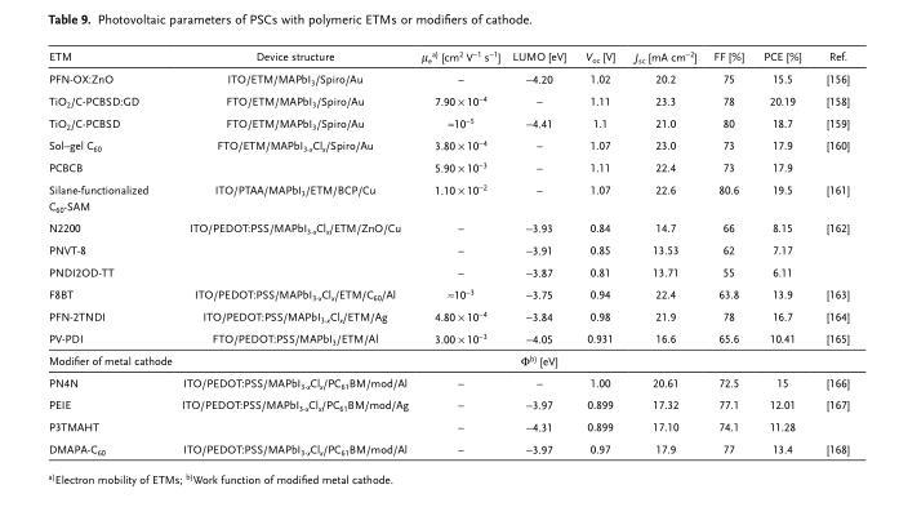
<table><thead><tr><td>ETM</td><td>Device structure</td><td>µ<sub>e</sub>a) [cm<sup>2</sup> V<sup>−1</sup> s<sup>−1</sup>]</td><td>LUMO [eV]</td><td>V<sub>oc</sub> [V]</td><td>J<sub>sc</sub> [mA cm<sup>−2</sup>]</td><td>FF [%]</td><td>PCE [%]</td><td>Ref.</td></tr></thead><tbody><tr><td>PFN-OX:ZnO</td><td>ITO/ETM/MAPbI<sub>3</sub>/Spiro/Au</td><td>–</td><td>−4.20</td><td>1.02</td><td>20.2</td><td>75</td><td>15.5</td><td>[156]</td></tr><tr><td>TiO<sub>2</sub>/C-PCBSD:GD</td><td>FTO/ETM/MAPbI<sub>3</sub>/Spiro/Au</td><td>7.90 × 10<sup>−4</sup></td><td>–</td><td>1.11</td><td>23.3</td><td>78</td><td>20.19</td><td>[158]</td></tr><tr><td>TiO<sub>2</sub>/C-PCBSD</td><td>FTO/ETM/MAPbI<sub>3</sub>/Spiro/Au</td><td>≈10<sup>−5</sup></td><td>−4.41</td><td>1.1</td><td>21.0</td><td>80</td><td>18.7</td><td>[159]</td></tr><tr><td>Sol–gel C<sub>60</sub></td><td>FTO/ETM/MAPbI<sub>3-x</sub>Cl<sub>x</sub>/Spiro/Au</td><td>3.80 × 10<sup>−4</sup></td><td>–</td><td>1.07</td><td>23.0</td><td>73</td><td>17.9</td><td>[160]</td></tr><tr><td>PCBCB</td><td></td><td>5.90 × 10<sup>−3</sup></td><td>–</td><td>1.11</td><td>22.4</td><td>73</td><td>17.9</td><td></td></tr><tr><td>Silane-functionalized C<sub>60</sub>-SAM</td><td>ITO/PTAA/MAPbI<sub>3</sub>/ETM/BCP/Cu</td><td>1.10 × 10<sup>−2</sup></td><td>–</td><td>1.07</td><td>22.6</td><td>80.6</td><td>19.5</td><td>[161]</td></tr><tr><td>N2200</td><td>ITO/PEDOT:PSS/MAPbI<sub>3-x</sub>Cl<sub>x</sub>/ETM/ZnO/Cu</td><td>–</td><td>−3.93</td><td>0.84</td><td>14.7</td><td>66</td><td>8.15</td><td>[162]</td></tr><tr><td>PNVT-8</td><td></td><td>–</td><td>−3.91</td><td>0.85</td><td>13.53</td><td>62</td><td>7.17</td><td></td></tr><tr><td>PNDI2OD-TT</td><td></td><td>–</td><td>−3.87</td><td>0.81</td><td>13.71</td><td>55</td><td>6.11</td><td></td></tr><tr><td>F8BT</td><td>ITO/PEDOT:PSS/MAPbI<sub>3-x</sub>Cl<sub>x</sub>/ETM/C<sub>60</sub>/Al</td><td>≈10<sup>−3</sup></td><td>−3.75</td><td>0.94</td><td>22.4</td><td>63.8</td><td>13.9</td><td>[163]</td></tr><tr><td>PFN-2TNDI</td><td>ITO/PEDOT:PSS/MAPbI<sub>3-x</sub>Cl<sub>x</sub>/ETM/Ag</td><td>4.80 × 10<sup>−4</sup></td><td>−3.84</td><td>0.98</td><td>21.9</td><td>78</td><td>16.7</td><td>[164]</td></tr><tr><td>PV-PDI</td><td>FTO/PEDOT:PSS/MAPbI<sub>3</sub>/ETM/Al</td><td>3.00 × 10<sup>−3</sup></td><td>−4.05</td><td>0.931</td><td>16.6</td><td>65.6</td><td>10.41</td><td>[165]</td></tr><tr><td>Modifier of metal cathode</td><td></td><td></td><td>Φb) [eV]</td><td></td><td></td><td></td><td></td><td></td></tr><tr><td>PN4N</td><td>ITO/PEDOT:PSS/MAPbI<sub>3-x</sub>Cl<sub>x</sub>/PC<sub>61</sub>BM/mod/Al</td><td>–</td><td>–</td><td>1.00</td><td>20.61</td><td>72.5</td><td>15</td><td>[166]</td></tr><tr><td>PEIE</td><td>ITO/PEDOT:PSS/MAPbI<sub>3-x</sub>Cl<sub>x</sub>/PC<sub>61</sub>BM/mod/Ag</td><td>–</td><td>−3.97</td><td>0.899</td><td>17.32</td><td>77.1</td><td>12.01</td><td>[167]</td></tr><tr><td>P3TMAHT</td><td></td><td>–</td><td>−4.31</td><td>0.899</td><td>17.10</td><td>74.1</td><td>11.28</td><td></td></tr><tr><td>DMAPA-C<sub>60</sub></td><td>ITO/PEDOT:PSS/MAPbI<sub>3-x</sub>Cl<sub>x</sub>/PC<sub>61</sub>BM/mod/Al</td><td>–</td><td>−3.97</td><td>0.97</td><td>17.9</td><td>77</td><td>13.4</td><td>[168]</td></tr></tbody></table>